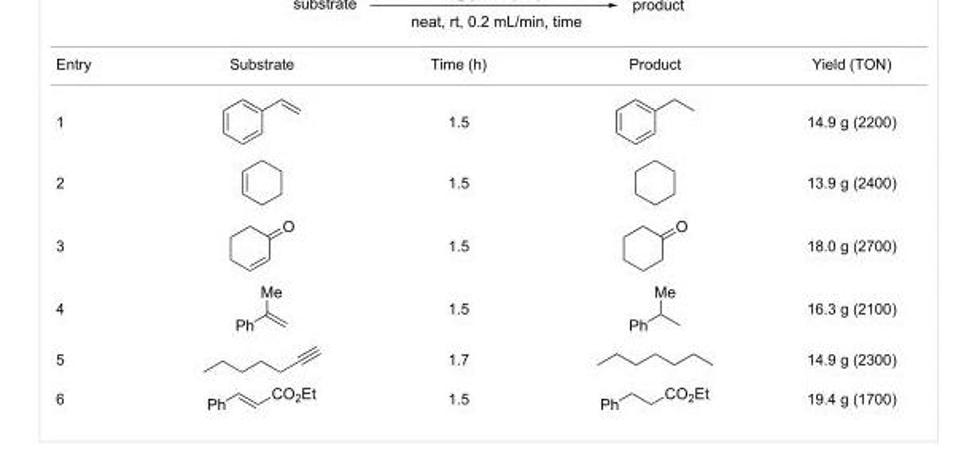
<table><tbody><tr><td>Entry</td><td>Substrate</td><td>Time (h)</td><td>Product</td><td>Yield (TON)</td></tr><tr><td>1</td><td></td><td>1.5</td><td></td><td>14.9 g (2200)</td></tr><tr><td>2</td><td></td><td>1.5</td><td></td><td>13.9 g (2400)</td></tr><tr><td>3</td><td></td><td>1.5</td><td></td><td>18.0 g (2700)</td></tr><tr><td>4</td><td></td><td>1.5</td><td></td><td>16.3 g (2100)</td></tr><tr><td>5</td><td></td><td>1.7</td><td></td><td>14.9 g (2300)</td></tr><tr><td>6</td><td></td><td>1.5</td><td></td><td>19.4 g (1700)</td></tr></tbody></table>